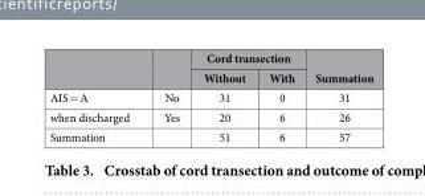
<table><thead><tr><td rowspan="2"></td><td rowspan="2"></td><td colspan="2">Cord transection</td><td rowspan="2">Summation</td></tr><tr><td>Without</td><td>With</td></tr></thead><tbody><tr><td>AIS = A</td><td>No</td><td>31</td><td>0</td><td>31</td></tr><tr><td>when discharged</td><td>Yes</td><td>20</td><td>6</td><td>26</td></tr><tr><td>Summation</td><td></td><td>51</td><td>6</td><td>57</td></tr></tbody></table>